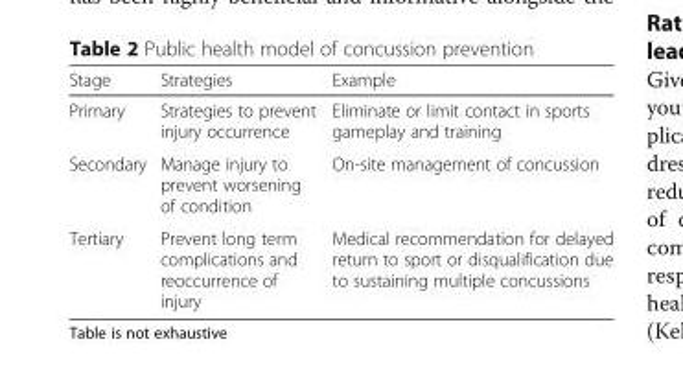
<table><thead><tr><td>Stage</td><td>Strategies</td><td>Example</td></tr></thead><tbody><tr><td>Primary</td><td>Strategies to prevent injury occurrence</td><td>Eliminate or limit contact in sports gameplay and training</td></tr><tr><td>Secondary</td><td>Manage injury to prevent worsening of condition</td><td>On-site management of concussion</td></tr><tr><td>Tertiary</td><td>Prevent long term complications and reoccurrence of injury</td><td>Medical recommendation for delayed return to sport or disqualification due to sustaining multiple concussions</td></tr></tbody></table>